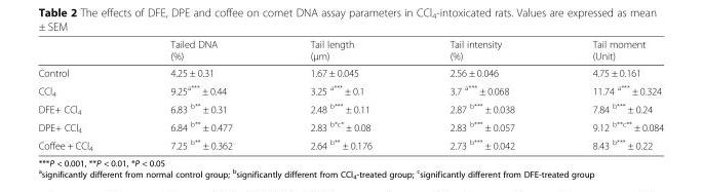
<table><thead><tr><td></td><td>Tailed DNA (%)</td><td>Tail length (μm)</td><td>Tail intensity (%)</td><td>Tail moment (Unit)</td></tr></thead><tbody><tr><td>Control</td><td>4.25 ± 0.31</td><td>1.67 ± 0.045</td><td>2.56 ± 0.046</td><td>4.75 ± 0.161</td></tr><tr><td>CCl<sub>4</sub></td><td>9.25<sup>a***</sup> ± 0.44</td><td>3.25 <sup>a***</sup> ± 0.1</td><td>3.7 <sup>a***</sup> ± 0.068</td><td>11.74 <sup>a***</sup> ± 0.324</td></tr><tr><td>DFE+ CCl<sub>4</sub></td><td>6.83 <sup>b**</sup> ± 0.31</td><td>2.48 <sup>b***</sup> ± 0.11</td><td>2.87 <sup>b***</sup> ± 0.038</td><td>7.84 <sup>b***</sup> ± 0.24</td></tr><tr><td>DPE+ CCl<sub>4</sub></td><td>6.84 <sup>b**</sup> ± 0.477</td><td>2.83 <sup>b*c*</sup> ± 0.08</td><td>2.83 <sup>b***</sup> ± 0.057</td><td>9.12 <sup>b**c**</sup> ± 0.084</td></tr><tr><td>Coffee + CCl<sub>4</sub></td><td>7.25 <sup>b**</sup> ± 0.362</td><td>2.64 <sup>b**</sup> ± 0.176</td><td>2.73 <sup>b***</sup> ± 0.042</td><td>8.43 <sup>b***</sup> ± 0.22</td></tr></tbody></table>